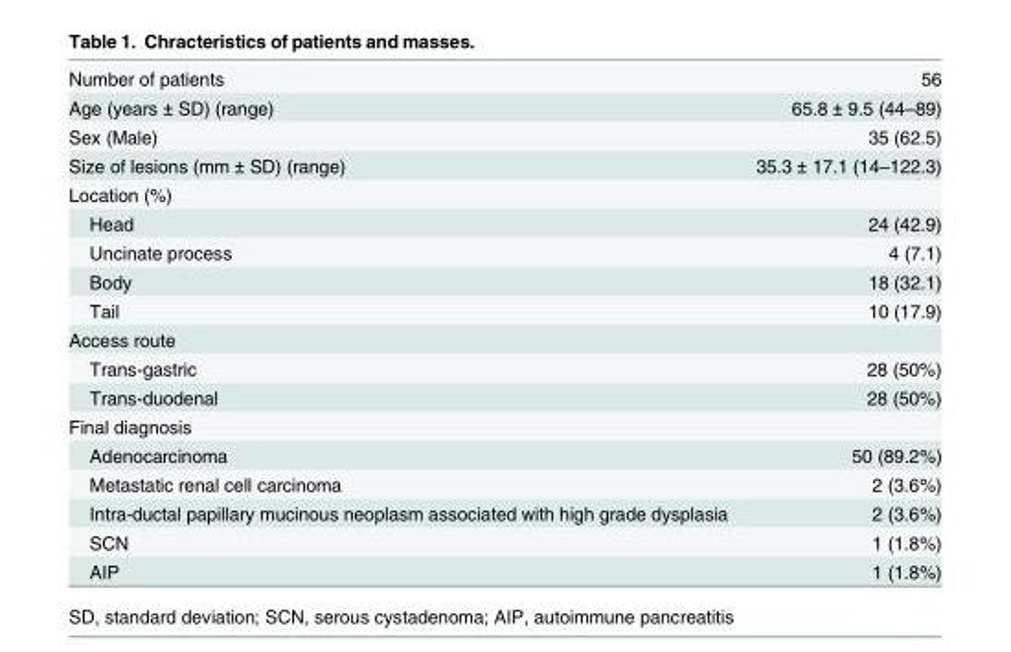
<table><tbody><tr><td>Number of patients</td><td>56</td></tr><tr><td>Age (years ± SD) (range)</td><td>65.8 ± 9.5 (44–89)</td></tr><tr><td>Sex (Male)</td><td>35 (62.5)</td></tr><tr><td>Size of lesions (mm ± SD) (range)</td><td>35.3 ± 17.1 (14–122.3)</td></tr><tr><td colspan="2">Location (%)</td></tr><tr><td>Head</td><td>24 (42.9)</td></tr><tr><td>Uncinate process</td><td>4 (7.1)</td></tr><tr><td>Body</td><td>18 (32.1)</td></tr><tr><td>Tail</td><td>10 (17.9)</td></tr><tr><td colspan="2">Access route</td></tr><tr><td>Trans-gastric</td><td>28 (50%)</td></tr><tr><td>Trans-duodenal</td><td>28 (50%)</td></tr><tr><td colspan="2">Final diagnosis</td></tr><tr><td>Adenocarcinoma</td><td>50 (89.2%)</td></tr><tr><td>Metastatic renal cell carcinoma</td><td>2 (3.6%)</td></tr><tr><td>Intra-ductal papillary mucinous neoplasm associated with high grade dysplasia</td><td>2 (3.6%)</td></tr><tr><td>SCN</td><td>1 (1.8%)</td></tr><tr><td>AIP</td><td>1 (1.8%)</td></tr></tbody></table>